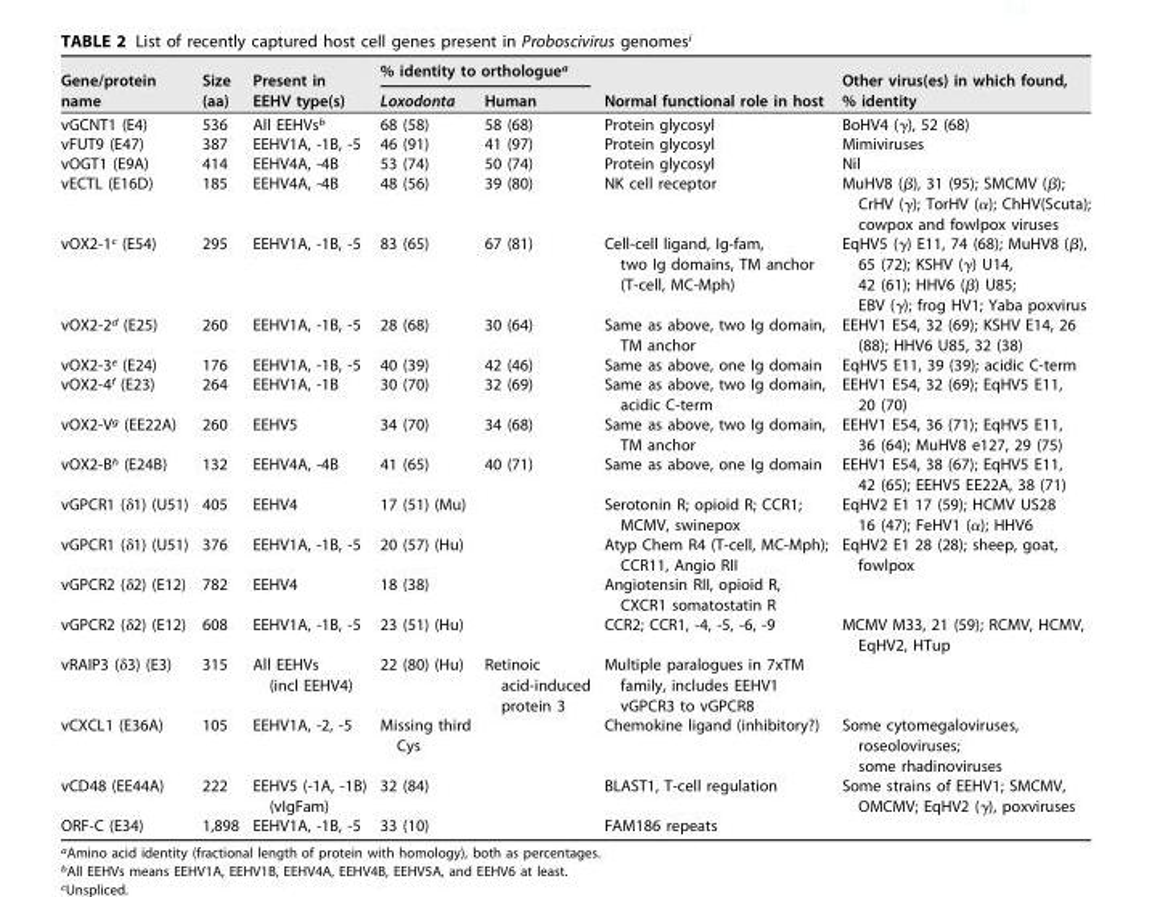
<table><thead><tr><td rowspan="2">Gene/protein name</td><td rowspan="2">Size (aa)</td><td rowspan="2">Present in EEHV type(s)</td><td colspan="2">% identity to orthologue<sup>a</sup></td><td rowspan="2">Normal functional role in host</td><td rowspan="2">Other virus(es) in which found, % identity</td></tr><tr><td>Loxodonta</td><td>Human</td></tr></thead><tbody><tr><td>vGCNT1 (E4)</td><td>536</td><td>All EEHVs<sup>b</sup></td><td>68 (58)</td><td>58 (68)</td><td>Protein glycosyl</td><td>BoHV4 (γ), 52 (68)</td></tr><tr><td>vFUT9 (E47)</td><td>387</td><td>EEHV1A, -1B, -5</td><td>46 (91)</td><td>41 (97)</td><td>Protein glycosyl</td><td>Mimiviruses</td></tr><tr><td>vOGT1 (E9A)</td><td>414</td><td>EEHV4A, -4B</td><td>53 (74)</td><td>50 (74)</td><td>Protein glycosyl</td><td>Nil</td></tr><tr><td>vECTL (E16D)</td><td>185</td><td>EEHV4A, -4B</td><td>48 (56)</td><td>39 (80)</td><td>NK cell receptor</td><td>MuHV8 (β), 31 (95); SMCMV (β); CrHV (γ); TorHV (α); ChHV(Scuta); cowpox and fowlpox viruses</td></tr><tr><td>vOX2-1<sup>c</sup> (E54)</td><td>295</td><td>EEHV1A, -1B, -5</td><td>83 (65)</td><td>67 (81)</td><td>Cell-cell ligand, Ig-fam, two Ig domains, TM anchor (T-cell, MC-Mph)</td><td>EqHV5 (γ) E11, 74 (68); MuHV8 (β), 65 (72); KSHV (γ) U14, 42 (61); HHV6 (β) U85; EBV (γ); frog HV1; Yaba poxvirus</td></tr><tr><td>vOX2-2<sup>d</sup> (E25)</td><td>260</td><td>EEHV1A, -1B, -5</td><td>28 (68)</td><td>30 (64)</td><td>Same as above, two Ig domain, TM anchor</td><td>EEHV1 E54, 32 (69); KSHV E14, 26 (88); HHV6 U85, 32 (38)</td></tr><tr><td>vOX2-3<sup>e</sup> (E24)</td><td>176</td><td>EEHV1A, -1B, -5</td><td>40 (39)</td><td>42 (46)</td><td>Same as above, one Ig domain</td><td>EqHV5 E11, 39 (39); acidic C-term</td></tr><tr><td>vOX2-4<sup>f</sup> (E23)</td><td>264</td><td>EEHV1A, -1B</td><td>30 (70)</td><td>32 (69)</td><td>Same as above, two Ig domain, acidic C-term</td><td>EEHV1 E54, 32 (69); EqHV5 E11, 20 (70)</td></tr><tr><td>vOX2-V<sup>g</sup> (EE22A)</td><td>260</td><td>EEHV5</td><td>34 (70)</td><td>34 (68)</td><td>Same as above, two Ig domain, TM anchor</td><td>EEHV1 E54, 36 (71); EqHV5 E11, 36 (64); MuHV8 e127, 29 (75)</td></tr><tr><td>vOX2-B<sup>h</sup> (E24B)</td><td>132</td><td>EEHV4A, -4B</td><td>41 (65)</td><td>40 (71)</td><td>Same as above, one Ig domain</td><td>EEHV1 E54, 38 (67); EqHV5 E11, 42 (65); EEHV5 EE22A, 38 (71)</td></tr><tr><td>vGPCR1 (δ1) (U51)</td><td>405</td><td>EEHV4</td><td>17 (51) (Mu)</td><td></td><td>Serotonin R; opioid R; CCR1; MCMV, swinepox</td><td>EqHV2 E1 17 (59); HCMV US28 16 (47); FeHV1 (α); HHV6</td></tr><tr><td>vGPCR1 (δ1) (U51)</td><td>376</td><td>EEHV1A, -1B, -5</td><td>20 (57) (Hu)</td><td></td><td>Atyp Chem R4 (T-cell, MC-Mph); CCR11, Angio RII</td><td>EqHV2 E1 28 (28); sheep, goat, fowlpox</td></tr><tr><td>vGPCR2 (δ2) (E12)</td><td>782</td><td>EEHV4</td><td>18 (38)</td><td></td><td>Angiotensin RII, opioid R, CXCR1 somatostatin R</td><td></td></tr><tr><td>vGPCR2 (δ2) (E12)</td><td>608</td><td>EEHV1A, -1B, -5</td><td>23 (51) (Hu)</td><td></td><td>CCR2; CCR1, -4, -5, -6, -9</td><td>MCMV M33, 21 (59); RCMV, HCMV, EqHV2, HTup</td></tr><tr><td>vRAIP3 (δ3) (E3)</td><td>315</td><td>All EEHVs (incl EEHV4)</td><td>22 (80) (Hu)</td><td>Retinoic acid-induced protein 3</td><td>Multiple paralogues in 7xTM family, includes EEHV1 vGPCR3 to vGPCR8</td><td></td></tr><tr><td>vCXCL1 (E36A)</td><td>105</td><td>EEHV1A, -2, -5</td><td>Missing third Cys</td><td></td><td>Chemokine ligand (inhibitory?)</td><td>Some cytomegaloviruses, roseoloviruses; some rhadinoviruses</td></tr><tr><td>vCD48 (EE44A)</td><td>222</td><td>EEHV5 (-1A, -1B) (vIgFam)</td><td>32 (84)</td><td></td><td>BLAST1, T-cell regulation</td><td>Some strains of EEHV1; SMCMV, OMCMV; EqHV2 (γ), poxviruses</td></tr><tr><td>ORF-C (E34)</td><td>1,898</td><td>EEHV1A, -1B, -5</td><td>33 (10)</td><td></td><td>FAM186 repeats</td><td></td></tr></tbody></table>